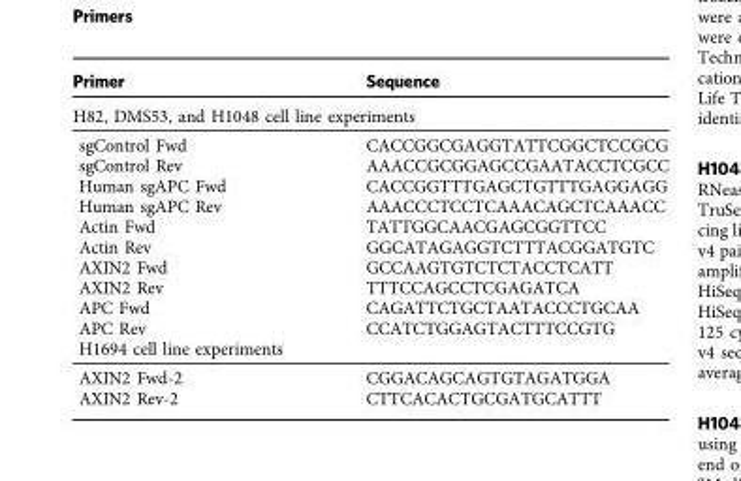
<table><thead><tr><td>Primer</td><td>Sequence</td></tr></thead><tbody><tr><td colspan="2">H82, DMS53, and H1048 cell line experiments</td></tr><tr><td>sgControl Fwd</td><td>CACCGGCGAGGTATTCGGCTCCGCG</td></tr><tr><td>sgControl Rev</td><td>AAACCGCGGAGCCGAATACCTCGCC</td></tr><tr><td>Human sgAPC Fwd</td><td>CACCGGTTTGAGCTGTTTGAGGAGG</td></tr><tr><td>Human sgAPC Rev</td><td>AAACCCTCCTCAAACAGCTCAAACC</td></tr><tr><td>Actin Fwd</td><td>TATTGGCAACGAGCGGTTCC</td></tr><tr><td>Actin Rev</td><td>GGCATAGAGGTCTTTACGGATGTC</td></tr><tr><td>AXIN2 Fwd</td><td>GCCAAGTGTCTCTACCTCATT</td></tr><tr><td>AXIN2 Rev</td><td>TTTCCAGCCTCGAGATCA</td></tr><tr><td>APC Fwd</td><td>CAGATTCTGCTAATACCCTGCAA</td></tr><tr><td>APC Rev</td><td>CCATCTGGAGTACTTTCCGTG</td></tr><tr><td colspan="2">H1694 cell line experiments</td></tr><tr><td>AXIN2 Fwd-2</td><td>CGGACAGCAGTGTAGATGGA</td></tr><tr><td>AXIN2 Rev-2</td><td>CTTCACACTGCGATGCATTT</td></tr></tbody></table>